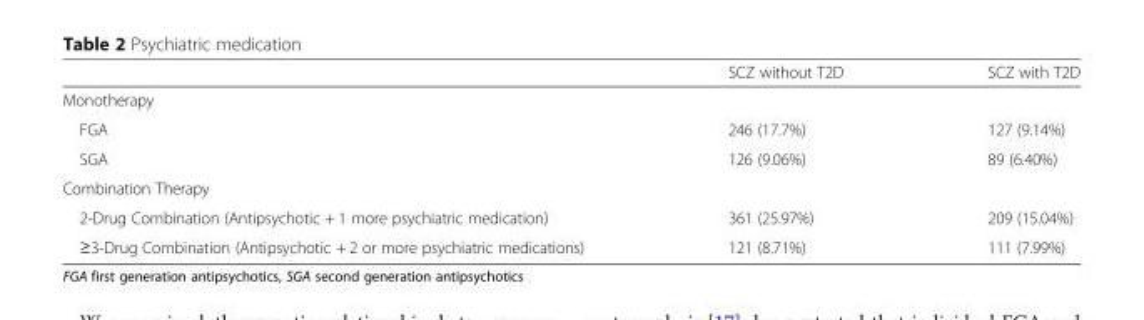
<table><thead><tr><td></td><td>SCZ without T2D</td><td>SCZ with T2D</td></tr></thead><tbody><tr><td colspan="3">Monotherapy</td></tr><tr><td>FGA</td><td>246 (17.7%)</td><td>127 (9.14%)</td></tr><tr><td>SGA</td><td>126 (9.06%)</td><td>89 (6.40%)</td></tr><tr><td colspan="3">Combination Therapy</td></tr><tr><td>2-Drug Combination (Antipsychotic + 1 more psychiatric medication)</td><td>361 (25.97%)</td><td>209 (15.04%)</td></tr><tr><td>≥3-Drug Combination (Antipsychotic + 2 or more psychiatric medications)</td><td>121 (8.71%)</td><td>111 (7.99%)</td></tr></tbody></table>